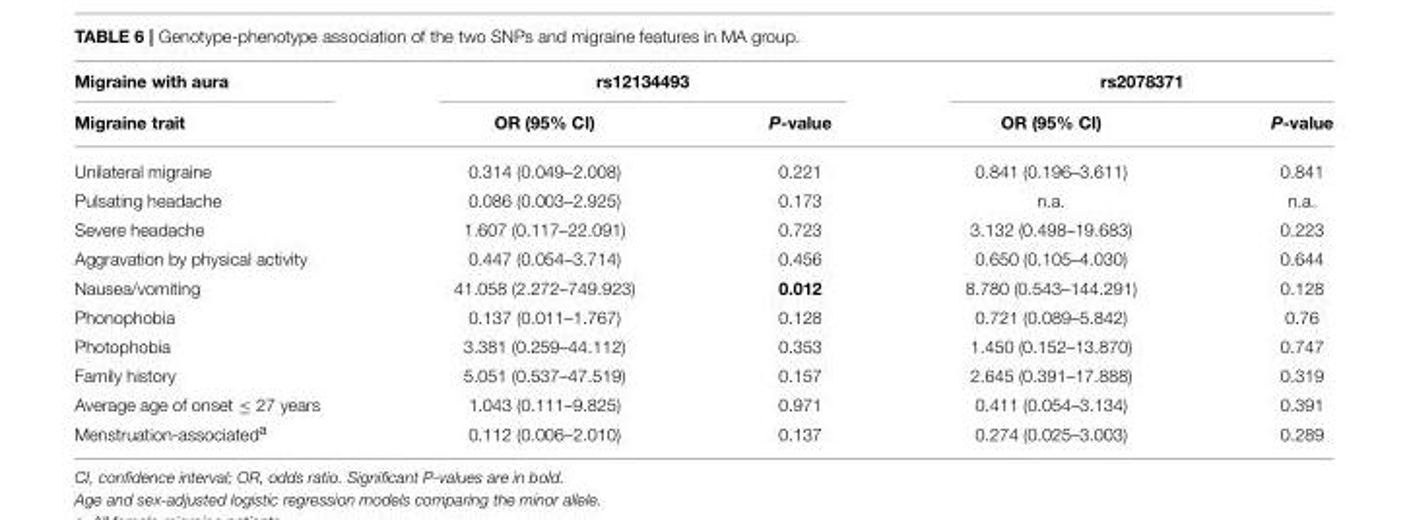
<table><thead><tr><td rowspan="2">Migraine with aura Migraine trait</td><td colspan="2">rs12134493</td><td colspan="2">rs2078371</td></tr><tr><td>OR (95% CI)</td><td>P-value</td><td>OR (95% CI)</td><td>P-value</td></tr></thead><tbody><tr><td>Unilateral migraine</td><td>0.314 (0.049–2.008)</td><td>0.221</td><td>0.841 (0.196–3.611)</td><td>0.841</td></tr><tr><td>Pulsating headache</td><td>0.086 (0.003–2.925)</td><td>0.173</td><td>n.a.</td><td>n.a.</td></tr><tr><td>Severe headache</td><td>1.607 (0.117–22.091)</td><td>0.723</td><td>3.132 (0.498–19.683)</td><td>0.223</td></tr><tr><td>Aggravation by physical activity</td><td>0.447 (0.054–3.714)</td><td>0.456</td><td>0.650 (0.105–4.030)</td><td>0.644</td></tr><tr><td>Nausea/vomiting</td><td>41.058 (2.272–749.923)</td><td>0.012</td><td>8.780 (0.543–144.291)</td><td>0.128</td></tr><tr><td>Phonophobia</td><td>0.137 (0.011–1.767)</td><td>0.128</td><td>0.721 (0.089–5.842)</td><td>0.76</td></tr><tr><td>Photophobia</td><td>3.381 (0.259–44.112)</td><td>0.353</td><td>1.450 (0.152–13.870)</td><td>0.747</td></tr><tr><td>Family history</td><td>5.051 (0.537–47.519)</td><td>0.157</td><td>2.645 (0.391–17.888)</td><td>0.319</td></tr><tr><td>Average age of onset ≤ 27 years</td><td>1.043 (0.111–9.825)</td><td>0.971</td><td>0.411 (0.054–3.134)</td><td>0.391</td></tr><tr><td>Menstruation-associated<sup>a</sup></td><td>0.112 (0.006–2.010)</td><td>0.137</td><td>0.274 (0.025–3.003)</td><td>0.289</td></tr></tbody></table>